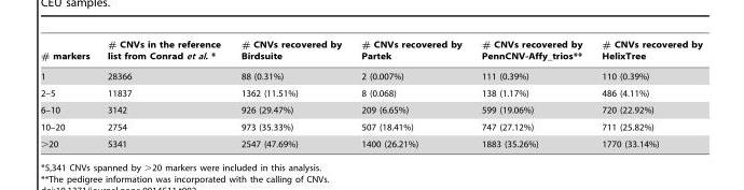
<table><thead><tr><td># markers</td><td># CNVs in the reference list from Conrad et al. *</td><td># CNVs recovered by Birdsuite</td><td># CNVs recovered by Partek</td><td># CNVs recovered by PennCNV-Affy_trios**</td><td># CNVs recovered by HelixTree</td></tr></thead><tbody><tr><td>1</td><td>28366</td><td>88 (0.31%)</td><td>2 (0.007%)</td><td>111 (0.39%)</td><td>110 (0.39%)</td></tr><tr><td>2–5</td><td>11837</td><td>1362 (11.51%)</td><td>8 (0.068)</td><td>138 (1.17%)</td><td>486 (4.11%)</td></tr><tr><td>6–10</td><td>3142</td><td>926 (29.47%)</td><td>209 (6.65%)</td><td>599 (19.06%)</td><td>720 (22.92%)</td></tr><tr><td>10–20</td><td>2754</td><td>973 (35.33%)</td><td>507 (18.41%)</td><td>747 (27.12%)</td><td>711 (25.82%)</td></tr><tr><td>&gt;20</td><td>5341</td><td>2547 (47.69%)</td><td>1400 (26.21%)</td><td>1883 (35.26%)</td><td>1770 (33.14%)</td></tr></tbody></table>